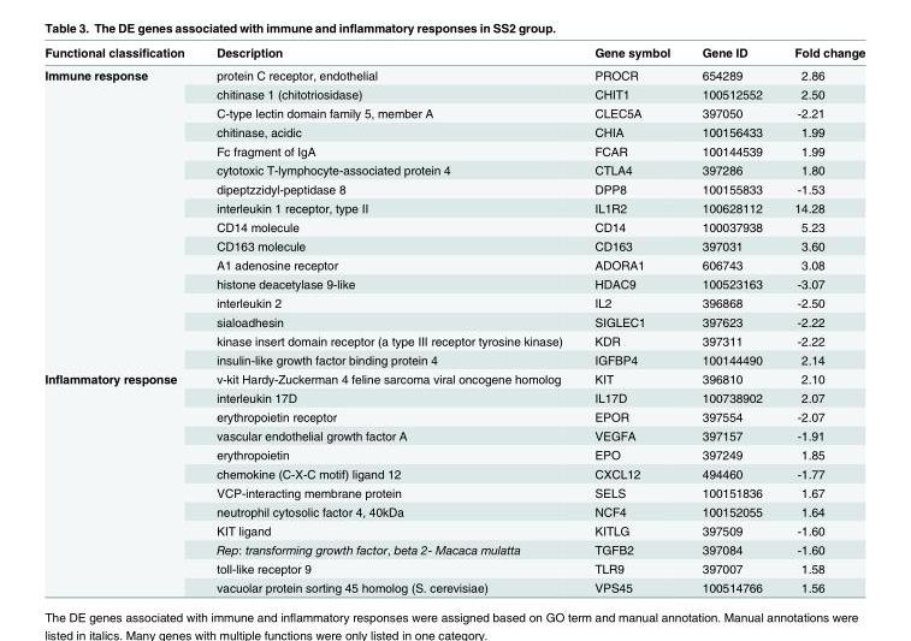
<table><thead><tr><td>Functional classification</td><td>Description</td><td>Gene symbol</td><td>Gene ID</td><td>Fold change</td></tr></thead><tbody><tr><td rowspan="16">Immune response</td><td>protein C receptor, endothelial</td><td>PROCR</td><td>654289</td><td>2.86</td></tr><tr><td>chitinase 1 (chitotriosidase)</td><td>CHIT1</td><td>100512552</td><td>2.50</td></tr><tr><td>C-type lectin domain family 5, member A</td><td>CLEC5A</td><td>397050</td><td>-2.21</td></tr><tr><td>chitinase, acidic</td><td>CHIA</td><td>100156433</td><td>1.99</td></tr><tr><td>Fc fragment of IgA</td><td>FCAR</td><td>100144539</td><td>1.99</td></tr><tr><td>cytotoxic T-lymphocyte-associated protein 4</td><td>CTLA4</td><td>397286</td><td>1.80</td></tr><tr><td>dipeptzzidyl-peptidase 8</td><td>DPP8</td><td>100155833</td><td>-1.53</td></tr><tr><td>interleukin 1 receptor, type II</td><td>IL1R2</td><td>100628112</td><td>14.28</td></tr><tr><td>CD14 molecule</td><td>CD14</td><td>100037938</td><td>5.23</td></tr><tr><td>CD163 molecule</td><td>CD163</td><td>397031</td><td>3.60</td></tr><tr><td>A1 adenosine receptor</td><td>ADORA1</td><td>606743</td><td>3.08</td></tr><tr><td>histone deacetylase 9-like</td><td>HDAC9</td><td>100523163</td><td>-3.07</td></tr><tr><td>interleukin 2</td><td>IL2</td><td>396868</td><td>-2.50</td></tr><tr><td>sialoadhesin</td><td>SIGLEC1</td><td>397623</td><td>-2.22</td></tr><tr><td>kinase insert domain receptor (a type III receptor tyrosine kinase)</td><td>KDR</td><td>397311</td><td>-2.22</td></tr><tr><td>insulin-like growth factor binding protein 4</td><td>IGFBP4</td><td>100144490</td><td>2.14</td></tr><tr><td rowspan="12">Inflammatory response</td><td>v-kit Hardy-Zuckerman 4 feline sarcoma viral oncogene homolog</td><td>KIT</td><td>396810</td><td>2.10</td></tr><tr><td>interleukin 17D</td><td>IL17D</td><td>100738902</td><td>2.07</td></tr><tr><td>erythropoietin receptor</td><td>EPOR</td><td>397554</td><td>-2.07</td></tr><tr><td>vascular endothelial growth factor A</td><td>VEGFA</td><td>397157</td><td>-1.91</td></tr><tr><td>erythropoietin</td><td>EPO</td><td>397249</td><td>1.85</td></tr><tr><td>chemokine (C-X-C motif) ligand 12</td><td>CXCL12</td><td>494460</td><td>-1.77</td></tr><tr><td>VCP-interacting membrane protein</td><td>SELS</td><td>100151836</td><td>1.67</td></tr><tr><td>neutrophil cytosolic factor 4, 40kDa</td><td>NCF4</td><td>100152055</td><td>1.64</td></tr><tr><td>KIT ligand</td><td>KITLG</td><td>397509</td><td>-1.60</td></tr><tr><td>Rep: transforming growth factor, beta 2- Macaca mulatta</td><td>TGFB2</td><td>397084</td><td>-1.60</td></tr><tr><td>toll-like receptor 9</td><td>TLR9</td><td>397007</td><td>1.58</td></tr><tr><td>vacuolar protein sorting 45 homolog (S. cerevisiae)</td><td>VPS45</td><td>100514766</td><td>1.56</td></tr></tbody></table>